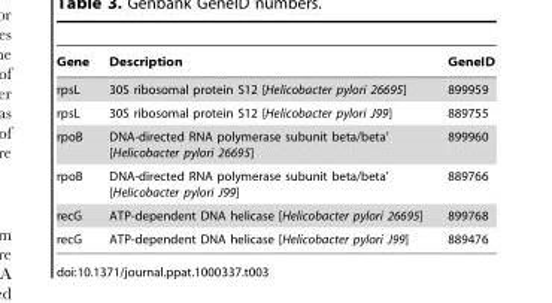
<table><thead><tr><td>Gene</td><td>Description</td><td>GeneID</td></tr></thead><tbody><tr><td>rpsL</td><td>30S ribosomal protein S12 [Helicobacter pylori 26695]</td><td>899959</td></tr><tr><td>rpsL</td><td>30S ribosomal protein S12 [Helicobacter pylori J99]</td><td>889755</td></tr><tr><td>rpoB</td><td>DNA-directed RNA polymerase subunit beta/beta’ [Helicobacter pylori 26695]</td><td>899960</td></tr><tr><td>rpoB</td><td>DNA-directed RNA polymerase subunit beta/beta’ [Helicobacter pylori J99]</td><td>889766</td></tr><tr><td>recG</td><td>ATP-dependent DNA helicase [Helicobacter pylori 26695]</td><td>899768</td></tr><tr><td>recG</td><td>ATP-dependent DNA helicase [Helicobacter pylori J99]</td><td>889476</td></tr></tbody></table>